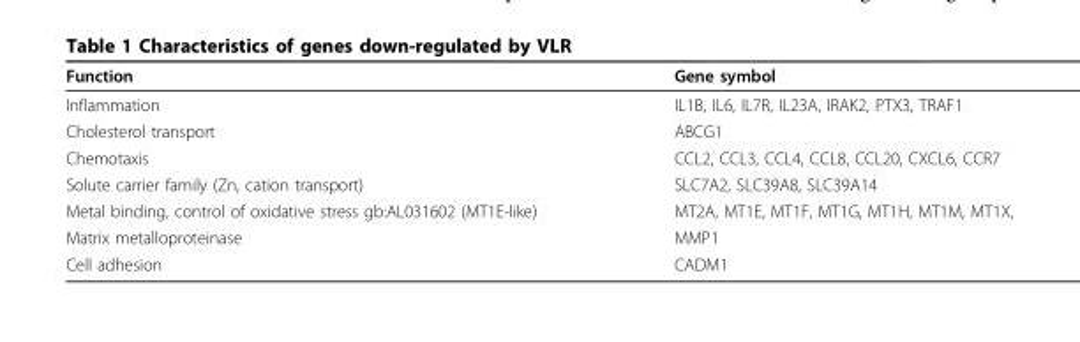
<table><thead><tr><td>Function</td><td>Gene symbol</td></tr></thead><tbody><tr><td>Inflammation</td><td>IL1B, IL6, IL7R, IL23A, IRAK2, PTX3, TRAF1</td></tr><tr><td>Cholesterol transport</td><td>ABCG1</td></tr><tr><td>Chemotaxis</td><td>CCL2, CCL3, CCL4, CCL8, CCL20, CXCL6, CCR7</td></tr><tr><td>Solute carrier family (Zn, cation transport)</td><td>SLC7A2, SLC39A8, SLC39A14</td></tr><tr><td>Metal binding, control of oxidative stress gb:AL031602 (MT1E-like)</td><td>MT2A, MT1E, MT1F, MT1G, MT1H, MT1M, MT1X,</td></tr><tr><td>Matrix metalloproteinase</td><td>MMP1</td></tr><tr><td>Cell adhesion</td><td>CADM1</td></tr></tbody></table>